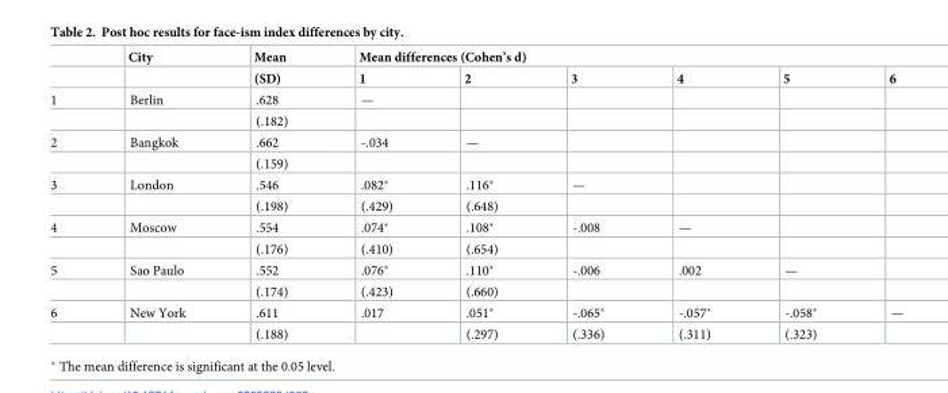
<table><thead><tr><td rowspan="2"></td><td rowspan="2">City</td><td rowspan="2">Mean (SD)</td><td colspan="6">Mean differences (Cohen’s d)</td></tr><tr><td>1</td><td>2</td><td>3</td><td>4</td><td>5</td><td>6</td></tr></thead><tbody><tr><td rowspan="2">1</td><td>Berlin</td><td>.628</td><td>—</td><td></td><td></td><td></td><td></td><td></td></tr><tr><td></td><td>(.182)</td><td></td><td></td><td></td><td></td><td></td><td></td></tr><tr><td rowspan="2">2</td><td>Bangkok</td><td>.662</td><td>-.034</td><td>—</td><td></td><td></td><td></td><td></td></tr><tr><td></td><td>(.159)</td><td></td><td></td><td></td><td></td><td></td><td></td></tr><tr><td rowspan="2">3</td><td>London</td><td>.546</td><td>.082*</td><td>.116*</td><td>—</td><td></td><td></td><td></td></tr><tr><td></td><td>(.198)</td><td>(.429)</td><td>(.648)</td><td></td><td></td><td></td><td></td></tr><tr><td rowspan="2">4</td><td>Moscow</td><td>.554</td><td>.074*</td><td>.108*</td><td>-.008</td><td>—</td><td></td><td></td></tr><tr><td></td><td>(.176)</td><td>(.410)</td><td>(.654)</td><td></td><td></td><td></td><td></td></tr><tr><td rowspan="2">5</td><td>Sao Paulo</td><td>.552</td><td>.076*</td><td>.110*</td><td>-.006</td><td>.002</td><td>—</td><td></td></tr><tr><td></td><td>(.174)</td><td>(.423)</td><td>(.660)</td><td></td><td></td><td></td><td></td></tr><tr><td rowspan="2">6</td><td>New York</td><td>.611</td><td>.017</td><td>.051*</td><td>-.065*</td><td>-.057*</td><td>-.058*</td><td></td></tr><tr><td></td><td>(.188)</td><td></td><td>(.297)</td><td>(.336)</td><td>(.311)</td><td>(.323)</td><td></td></tr></tbody></table>